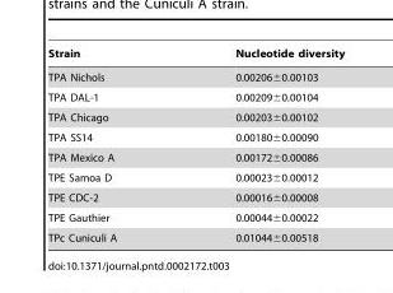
<table><thead><tr><td>Strain</td><td>Nucleotide diversity</td></tr></thead><tbody><tr><td>TPA Nichols</td><td>0.00206±0.00103</td></tr><tr><td>TPA DAL-1</td><td>0.00209±0.00104</td></tr><tr><td>TPA Chicago</td><td>0.00203±0.00102</td></tr><tr><td>TPA SS14</td><td>0.00180±0.00090</td></tr><tr><td>TPA Mexico A</td><td>0.00172±0.00086</td></tr><tr><td>TPE Samoa D</td><td>0.00023±0.00012</td></tr><tr><td>TPE CDC-2</td><td>0.00016±0.00008</td></tr><tr><td>TPE Gauthier</td><td>0.00044±0.00022</td></tr><tr><td>TPc Cuniculi A</td><td>0.01044±0.00518</td></tr></tbody></table>